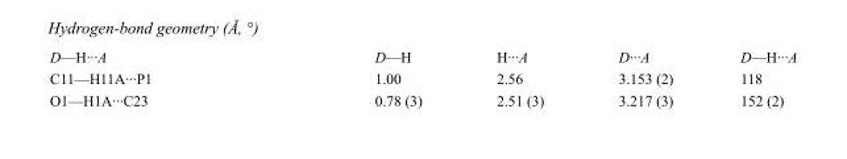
<table><tbody><tr><td>D—H···A</td><td>D—H</td><td>H···A</td><td>D···A</td><td>D—H···A</td></tr><tr><td>C11—H11A···P1</td><td>1.00</td><td>2.56</td><td>3.153 (2)</td><td>118</td></tr><tr><td>O1—H1A···C23</td><td>0.78 (3)</td><td>2.51 (3)</td><td>3.217 (3)</td><td>152 (2)</td></tr></tbody></table>